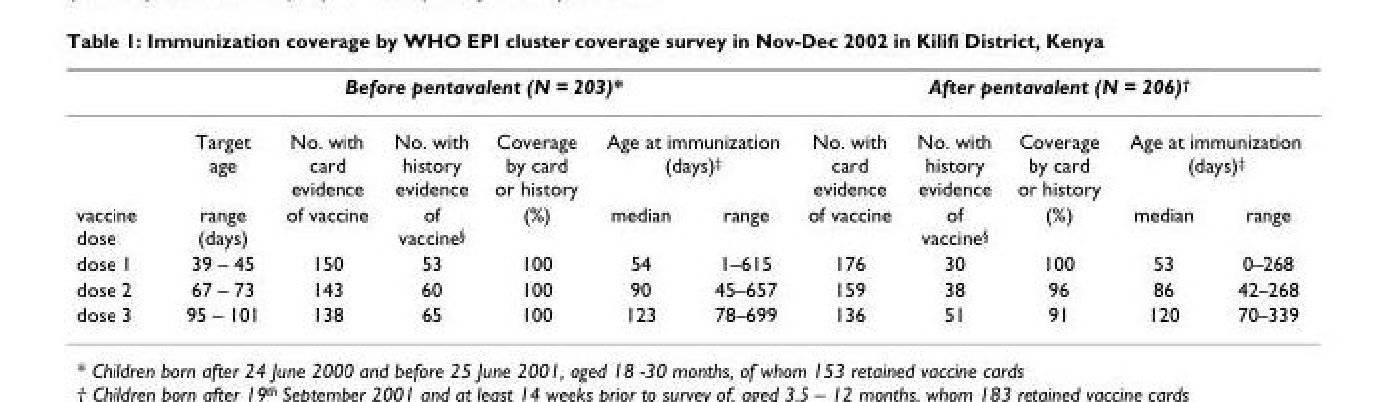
<table><thead><tr><td rowspan="3">vaccine dose</td><td colspan="6">Before pentavalent (N = 203)*</td><td colspan="5">After pentavalent (N = 206)†</td></tr><tr><td rowspan="2">Target age range (days)</td><td rowspan="2">No. with card evidence of vaccine</td><td rowspan="2">No. with history evidence of vaccine§</td><td rowspan="2">Coverage by card or history (%)</td><td colspan="2">Age at immunization (days)‡</td><td rowspan="2">No. with card evidence of vaccine</td><td rowspan="2">No. with history evidence of vaccine§</td><td rowspan="2">Coverage by card or history (%)</td><td colspan="2">Age at immunization (days)‡</td></tr><tr><td>median</td><td>range</td><td>median</td><td>range</td></tr></thead><tbody><tr><td>dose 1</td><td>39 – 45</td><td>150</td><td>53</td><td>100</td><td>54</td><td>1–615</td><td>176</td><td>30</td><td>100</td><td>53</td><td>0–268</td></tr><tr><td>dose 2</td><td>67 – 73</td><td>143</td><td>60</td><td>100</td><td>90</td><td>45–657</td><td>159</td><td>38</td><td>96</td><td>86</td><td>42–268</td></tr><tr><td>dose 3</td><td>95 – 101</td><td>138</td><td>65</td><td>100</td><td>123</td><td>78–699</td><td>136</td><td>51</td><td>91</td><td>120</td><td>70–339</td></tr></tbody></table>